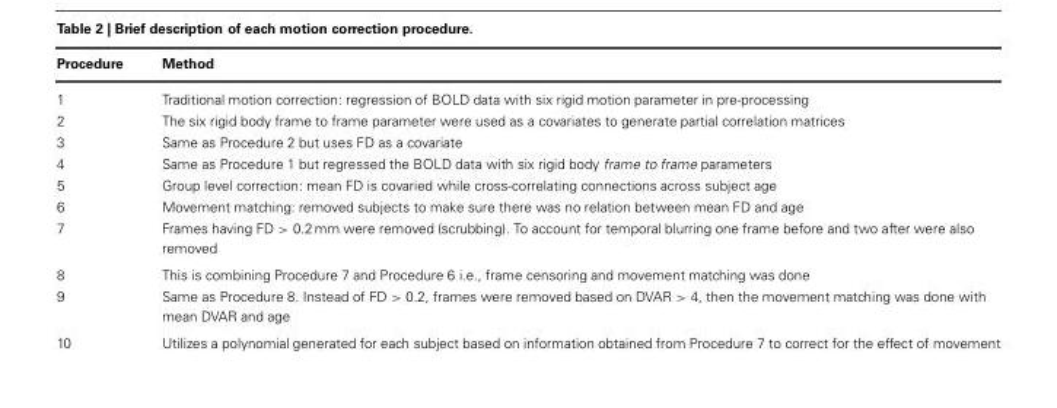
<table><thead><tr><td>Procedure</td><td>Method</td></tr></thead><tbody><tr><td>1</td><td>Traditional motion correction: regression of BOLD data with six rigid motion parameter in pre-processing</td></tr><tr><td>2</td><td>The six rigid body frame to frame parameter were used as a covariates to generate partial correlation matrices</td></tr><tr><td>3</td><td>Same as Procedure 2 but uses FD as a covariate</td></tr><tr><td>4</td><td>Same as Procedure 1 but regressed the BOLD data with six rigid body frame to frame parameters</td></tr><tr><td>5</td><td>Group level correction: mean FD is covaried while cross-correlating connections across subject age</td></tr><tr><td>6</td><td>Movement matching: removed subjects to make sure there was no relation between mean FD and age</td></tr><tr><td>7</td><td>Frames having FD &gt; 0.2 mm were removed (scrubbing). To account for temporal blurring one frame before and two after were also removed</td></tr><tr><td>8</td><td>This is combining Procedure 7 and Procedure 6 i.e., frame censoring and movement matching was done</td></tr><tr><td>9</td><td>Same as Procedure 8. Instead of FD &gt; 0.2, frames were removed based on DVAR &gt; 4, then the movement matching was done with mean DVAR and age</td></tr><tr><td>10</td><td>Utilizes a polynomial generated for each subject based on information obtained from Procedure 7 to correct for the effect of movement</td></tr></tbody></table>